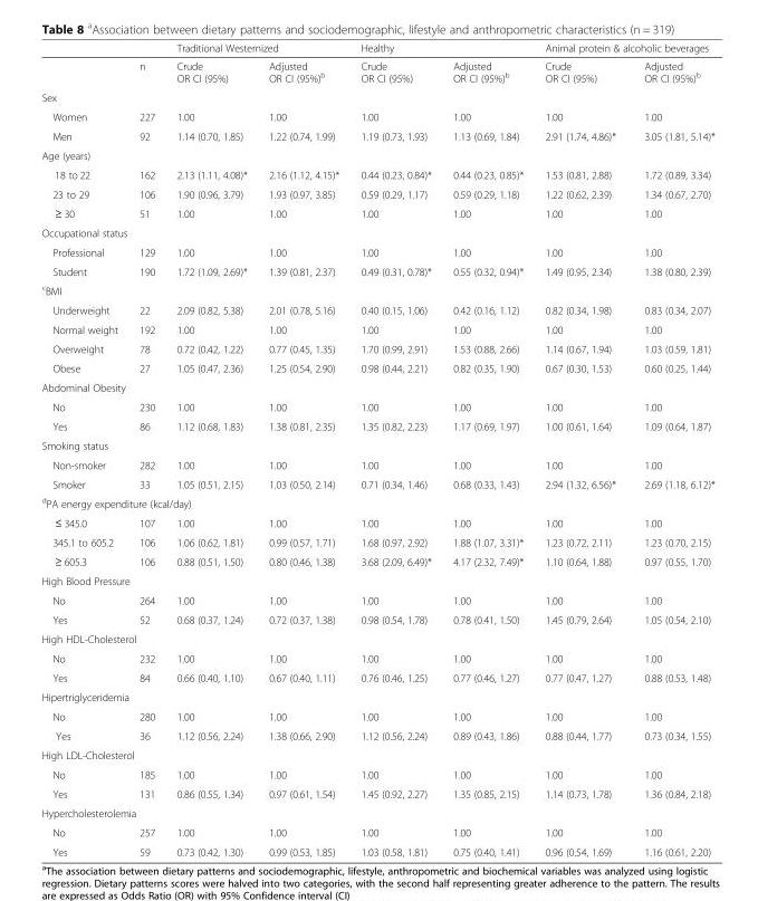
<table><thead><tr><td rowspan="2"></td><td rowspan="2">n</td><td colspan="2">Traditional Westernized</td><td colspan="2">Healthy</td><td colspan="2">Animal protein &amp; alcoholic beverages</td></tr><tr><td>Crude OR CI (95%)</td><td>Adjusted OR CI (95%)<sup>b</sup></td><td>Crude OR CI (95%)</td><td>Adjusted OR CI (95%)<sup>b</sup></td><td>Crude OR CI (95%)</td><td>Adjusted OR CI (95%)<sup>b</sup></td></tr></thead><tbody><tr><td colspan="8">Sex</td></tr><tr><td>Women</td><td>227</td><td>1.00</td><td>1.00</td><td>1.00</td><td>1.00</td><td>1.00</td><td>1.00</td></tr><tr><td>Men</td><td>92</td><td>1.14 (0.70, 1.85)</td><td>1.22 (0.74, 1.99)</td><td>1.19 (0.73, 1.93)</td><td>1.13 (0.69, 1.84)</td><td>2.91 (1.74, 4.86)*</td><td>3.05 (1.81, 5.14)*</td></tr><tr><td colspan="8">Age (years)</td></tr><tr><td>18 to 22</td><td>162</td><td>2.13 (1.11, 4.08)*</td><td>2.16 (1.12, 4.15)*</td><td>0.44 (0.23, 0.84)*</td><td>0.44 (0.23, 0.85)*</td><td>1.53 (0.81, 2.88)</td><td>1.72 (0.89, 3.34)</td></tr><tr><td>23 to 29</td><td>106</td><td>1.90 (0.96, 3.79)</td><td>1.93 (0.97, 3.85)</td><td>0.59 (0.29, 1.17)</td><td>0.59 (0.29, 1.18)</td><td>1.22 (0.62, 2.39)</td><td>1.34 (0.67, 2.70)</td></tr><tr><td>≥ 30</td><td>51</td><td>1.00</td><td>1.00</td><td>1.00</td><td>1.00</td><td>1.00</td><td>1.00</td></tr><tr><td colspan="8">Occupational status</td></tr><tr><td>Professional</td><td>129</td><td>1.00</td><td>1.00</td><td>1.00</td><td>1.00</td><td>1.00</td><td>1.00</td></tr><tr><td>Student</td><td>190</td><td>1.72 (1.09, 2.69)*</td><td>1.39 (0.81, 2.37)</td><td>0.49 (0.31, 0.78)*</td><td>0.55 (0.32, 0.94)*</td><td>1.49 (0.95, 2.34)</td><td>1.38 (0.80, 2.39)</td></tr><tr><td colspan="8"><sup>c</sup>BMI</td></tr><tr><td>Underweight</td><td>22</td><td>2.09 (0.82, 5.38)</td><td>2.01 (0.78, 5.16)</td><td>0.40 (0.15, 1.06)</td><td>0.42 (0.16, 1.12)</td><td>0.82 (0.34, 1.98)</td><td>0.83 (0.34, 2.07)</td></tr><tr><td>Normal weight</td><td>192</td><td>1.00</td><td>1.00</td><td>1.00</td><td>1.00</td><td>1.00</td><td>1.00</td></tr><tr><td>Overweight</td><td>78</td><td>0.72 (0.42, 1.22)</td><td>0.77 (0.45, 1.35)</td><td>1.70 (0.99, 2.91)</td><td>1.53 (0.88, 2.66)</td><td>1.14 (0.67, 1.94)</td><td>1.03 (0.59, 1.81)</td></tr><tr><td>Obese</td><td>27</td><td>1.05 (0.47, 2.36)</td><td>1.25 (0.54, 2.90)</td><td>0.98 (0.44, 2.21)</td><td>0.82 (0.35, 1.90)</td><td>0.67 (0.30, 1.53)</td><td>0.60 (0.25, 1.44)</td></tr><tr><td colspan="8">Abdominal Obesity</td></tr><tr><td>No</td><td>230</td><td>1.00</td><td>1.00</td><td>1.00</td><td>1.00</td><td>1.00</td><td>1.00</td></tr><tr><td>Yes</td><td>86</td><td>1.12 (0.68, 1.83)</td><td>1.38 (0.81, 2.35)</td><td>1.35 (0.82, 2.23)</td><td>1.17 (0.69, 1.97)</td><td>1.00 (0.61, 1.64)</td><td>1.09 (0.64, 1.87)</td></tr><tr><td colspan="8">Smoking status</td></tr><tr><td>Non-smoker</td><td>282</td><td>1.00</td><td>1.00</td><td>1.00</td><td>1.00</td><td>1.00</td><td>1.00</td></tr><tr><td>Smoker</td><td>33</td><td>1.05 (0.51, 2.15)</td><td>1.03 (0.50, 2.14)</td><td>0.71 (0.34, 1.46)</td><td>0.68 (0.33, 1.43)</td><td>2.94 (1.32, 6.56)*</td><td>2.69 (1.18, 6.12)*</td></tr><tr><td colspan="8"><sup>d</sup>PA energy expenditure (kcal/day)</td></tr><tr><td>≤ 345.0</td><td>107</td><td>1.00</td><td>1.00</td><td>1.00</td><td>1.00</td><td>1.00</td><td>1.00</td></tr><tr><td>345.1 to 605.2</td><td>106</td><td>1.06 (0.62, 1.81)</td><td>0.99 (0.57, 1.71)</td><td>1.68 (0.97, 2.92)</td><td>1.88 (1.07, 3.31)*</td><td>1.23 (0.72, 2.11)</td><td>1.23 (0.70, 2.15)</td></tr><tr><td>≥ 605.3</td><td>106</td><td>0.88 (0.51, 1.50)</td><td>0.80 (0.46, 1.38)</td><td>3.68 (2.09, 6.49)*</td><td>4.17 (2.32, 7.49)*</td><td>1.10 (0.64, 1.88)</td><td>0.97 (0.55, 1.70)</td></tr><tr><td colspan="8">High Blood Pressure</td></tr><tr><td>No</td><td>264</td><td>1.00</td><td>1.00</td><td>1.00</td><td>1.00</td><td>1.00</td><td>1.00</td></tr><tr><td>Yes</td><td>52</td><td>0.68 (0.37, 1.24)</td><td>0.72 (0.37, 1.38)</td><td>0.98 (0.54, 1.78)</td><td>0.78 (0.41, 1.50)</td><td>1.45 (0.79, 2.64)</td><td>1.05 (0.54, 2.10)</td></tr><tr><td colspan="8">High HDL-Cholesterol</td></tr><tr><td>No</td><td>232</td><td>1.00</td><td>1.00</td><td>1.00</td><td>1.00</td><td>1.00</td><td>1.00</td></tr><tr><td>Yes</td><td>84</td><td>0.66 (0.40, 1.10)</td><td>0.67 (0.40, 1.11)</td><td>0.76 (0.46, 1.25)</td><td>0.77 (0.46, 1.27)</td><td>0.77 (0.47, 1.27)</td><td>0.88 (0.53, 1.48)</td></tr><tr><td colspan="8">Hipertriglyceridemia</td></tr><tr><td>No</td><td>280</td><td>1.00</td><td>1.00</td><td>1.00</td><td>1.00</td><td>1.00</td><td>1.00</td></tr><tr><td>Yes</td><td>36</td><td>1.12 (0.56, 2.24)</td><td>1.38 (0.66, 2.90)</td><td>1.12 (0.56, 2.24)</td><td>0.89 (0.43, 1.86)</td><td>0.88 (0.44, 1.77)</td><td>0.73 (0.34, 1.55)</td></tr><tr><td colspan="8">High LDL-Cholesterol</td></tr><tr><td>No</td><td>185</td><td>1.00</td><td>1.00</td><td>1.00</td><td>1.00</td><td>1.00</td><td>1.00</td></tr><tr><td>Yes</td><td>131</td><td>0.86 (0.55, 1.34)</td><td>0.97 (0.61, 1.54)</td><td>1.45 (0.92, 2.27)</td><td>1.35 (0.85, 2.15)</td><td>1.14 (0.73, 1.78)</td><td>1.36 (0.84, 2.18)</td></tr><tr><td colspan="8">Hypercholesterolemia</td></tr><tr><td>No</td><td>257</td><td>1.00</td><td>1.00</td><td>1.00</td><td>1.00</td><td>1.00</td><td>1.00</td></tr><tr><td>Yes</td><td>59</td><td>0.73 (0.42, 1.30)</td><td>0.99 (0.53, 1.85)</td><td>1.03 (0.58, 1.81)</td><td>0.75 (0.40, 1.41)</td><td>0.96 (0.54, 1.69)</td><td>1.16 (0.61, 2.20)</td></tr></tbody></table>